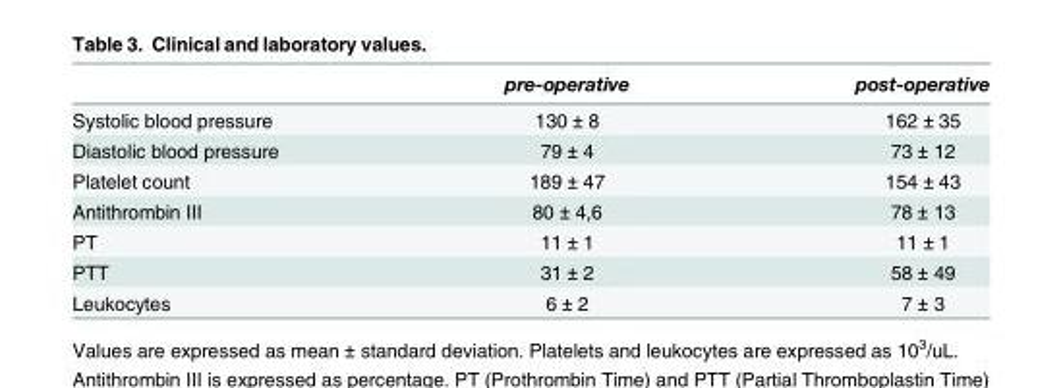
<table><thead><tr><td></td><td>pre-operative</td><td>post-operative</td></tr></thead><tbody><tr><td>Systolic blood pressure</td><td>130 ± 8</td><td>162 ± 35</td></tr><tr><td>Diastolic blood pressure</td><td>79 ± 4</td><td>73 ± 12</td></tr><tr><td>Platelet count</td><td>189 ± 47</td><td>154 ± 43</td></tr><tr><td>Antithrombin III</td><td>80 ± 4,6</td><td>78 ± 13</td></tr><tr><td>PT</td><td>11 ± 1</td><td>11 ± 1</td></tr><tr><td>PTT</td><td>31 ± 2</td><td>58 ± 49</td></tr><tr><td>Leukocytes</td><td>6 ± 2</td><td>7 ± 3</td></tr></tbody></table>